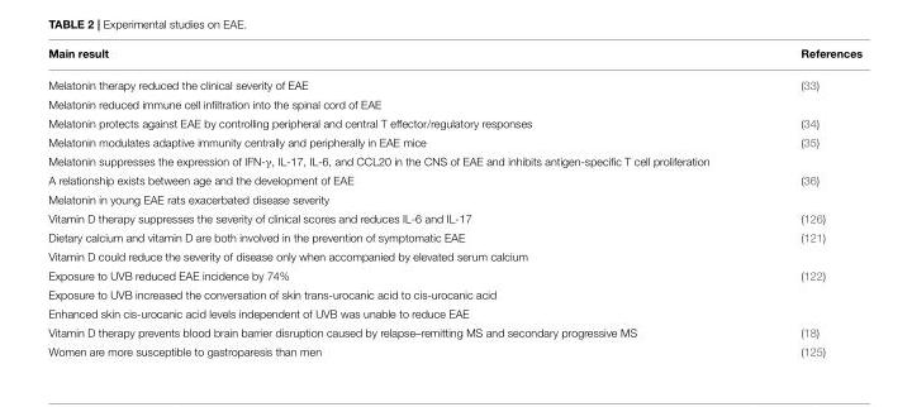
<table><thead><tr><td>Main result</td><td>References</td></tr></thead><tbody><tr><td>Melatonin therapy reduced the clinical severity of EAE</td><td>(33)</td></tr><tr><td colspan="2">Melatonin reduced immune cell infiltration into the spinal cord of EAE</td></tr><tr><td>Melatonin protects against EAE by controlling peripheral and central T effector/regulatory responses</td><td>(34)</td></tr><tr><td>Melatonin modulates adaptive immunity centrally and peripherally in EAE mice</td><td>(35)</td></tr><tr><td colspan="2">Melatonin suppresses the expression of IFN-γ, IL-17, IL-6, and CCL20 in the CNS of EAE and inhibits antigen-specific T cell proliferation</td></tr><tr><td>A relationship exists between age and the development of EAE</td><td>(36)</td></tr><tr><td colspan="2">Melatonin in young EAE rats exacerbated disease severity</td></tr><tr><td>Vitamin D therapy suppresses the severity of clinical scores and reduces IL-6 and IL-17</td><td>(126)</td></tr><tr><td>Dietary calcium and vitamin D are both involved in the prevention of symptomatic EAE</td><td>(121)</td></tr><tr><td colspan="2">Vitamin D could reduce the severity of disease only when accompanied by elevated serum calcium</td></tr><tr><td>Exposure to UVB reduced EAE incidence by 74%</td><td>(122)</td></tr><tr><td colspan="2">Exposure to UVB increased the conversation of skin trans-urocanic acid to cis-urocanic acid</td></tr><tr><td colspan="2">Enhanced skin cis-urocanic acid levels independent of UVB was unable to reduce EAE</td></tr><tr><td>Vitamin D therapy prevents blood brain barrier disruption caused by relapse–remitting MS and secondary progressive MS</td><td>(18)</td></tr><tr><td>Women are more susceptible to gastroparesis than men</td><td>(125)</td></tr></tbody></table>